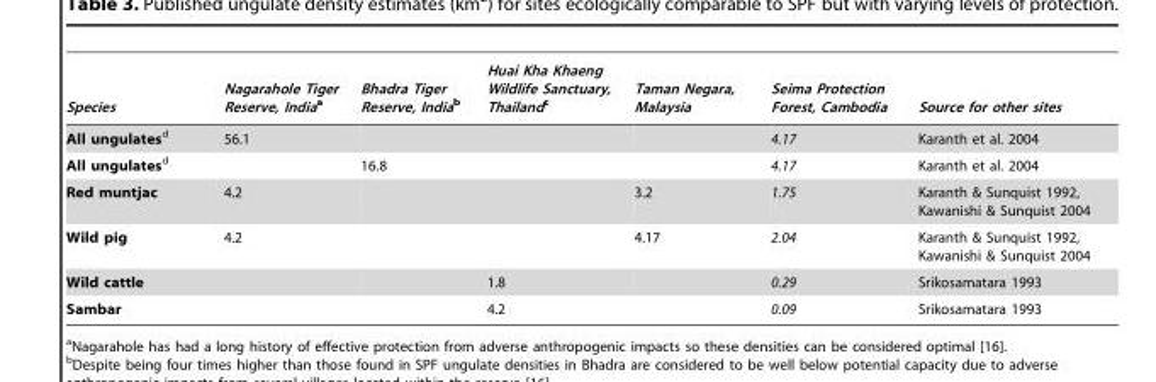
<table><thead><tr><td>Species</td><td>Nagarahole Tiger Reserve, Indiaa</td><td>Bhadra Tiger Reserve, Indiab</td><td>Huai Kha Khaeng Wildlife Sanctuary, Thailandc</td><td>Taman Negara, Malaysia</td><td>Seima Protection Forest, Cambodia</td><td>Source for other sites</td></tr></thead><tbody><tr><td>All ungulatesd</td><td>56.1</td><td></td><td></td><td></td><td>4.17</td><td>Karanth et al. 2004</td></tr><tr><td>All ungulatesd</td><td></td><td>16.8</td><td></td><td></td><td>4.17</td><td>Karanth et al. 2004</td></tr><tr><td>Red muntjac</td><td>4.2</td><td></td><td></td><td>3.2</td><td>1.75</td><td>Karanth &amp; Sunquist 1992, Kawanishi &amp; Sunquist 2004</td></tr><tr><td>Wild pig</td><td>4.2</td><td></td><td></td><td>4.17</td><td>2.04</td><td>Karanth &amp; Sunquist 1992, Kawanishi &amp; Sunquist 2004</td></tr><tr><td>Wild cattle</td><td></td><td></td><td>1.8</td><td></td><td>0.29</td><td>Srikosamatara 1993</td></tr><tr><td>Sambar</td><td></td><td></td><td>4.2</td><td></td><td>0.09</td><td>Srikosamatara 1993</td></tr></tbody></table>